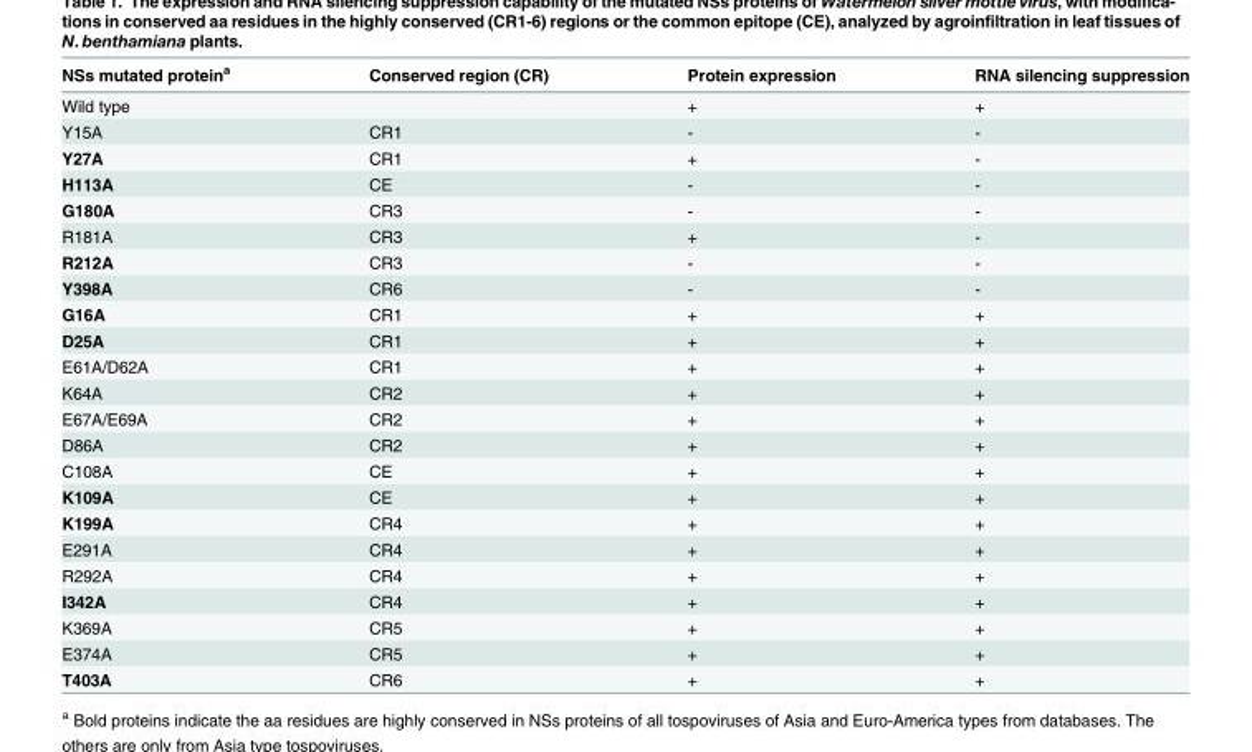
<table><thead><tr><td>NSs mutated protein<sup>a</sup></td><td>Conserved region (CR)</td><td>Protein expression</td><td>RNA silencing suppression</td></tr></thead><tbody><tr><td>Wild type</td><td></td><td>+</td><td>+</td></tr><tr><td>Y15A</td><td>CR1</td><td>-</td><td>-</td></tr><tr><td>Y27A</td><td>CR1</td><td>+</td><td>-</td></tr><tr><td>H113A</td><td>CE</td><td>-</td><td>-</td></tr><tr><td>G180A</td><td>CR3</td><td>-</td><td>-</td></tr><tr><td>R181A</td><td>CR3</td><td>+</td><td>-</td></tr><tr><td>R212A</td><td>CR3</td><td>-</td><td>-</td></tr><tr><td>Y398A</td><td>CR6</td><td>-</td><td>-</td></tr><tr><td>G16A</td><td>CR1</td><td>+</td><td>+</td></tr><tr><td>D25A</td><td>CR1</td><td>+</td><td>+</td></tr><tr><td>E61A/D62A</td><td>CR1</td><td>+</td><td>+</td></tr><tr><td>K64A</td><td>CR2</td><td>+</td><td>+</td></tr><tr><td>E67A/E69A</td><td>CR2</td><td>+</td><td>+</td></tr><tr><td>D86A</td><td>CR2</td><td>+</td><td>+</td></tr><tr><td>C108A</td><td>CE</td><td>+</td><td>+</td></tr><tr><td>K109A</td><td>CE</td><td>+</td><td>+</td></tr><tr><td>K199A</td><td>CR4</td><td>+</td><td>+</td></tr><tr><td>E291A</td><td>CR4</td><td>+</td><td>+</td></tr><tr><td>R292A</td><td>CR4</td><td>+</td><td>+</td></tr><tr><td>I342A</td><td>CR4</td><td>+</td><td>+</td></tr><tr><td>K369A</td><td>CR5</td><td>+</td><td>+</td></tr><tr><td>E374A</td><td>CR5</td><td>+</td><td>+</td></tr><tr><td>T403A</td><td>CR6</td><td>+</td><td>+</td></tr></tbody></table>